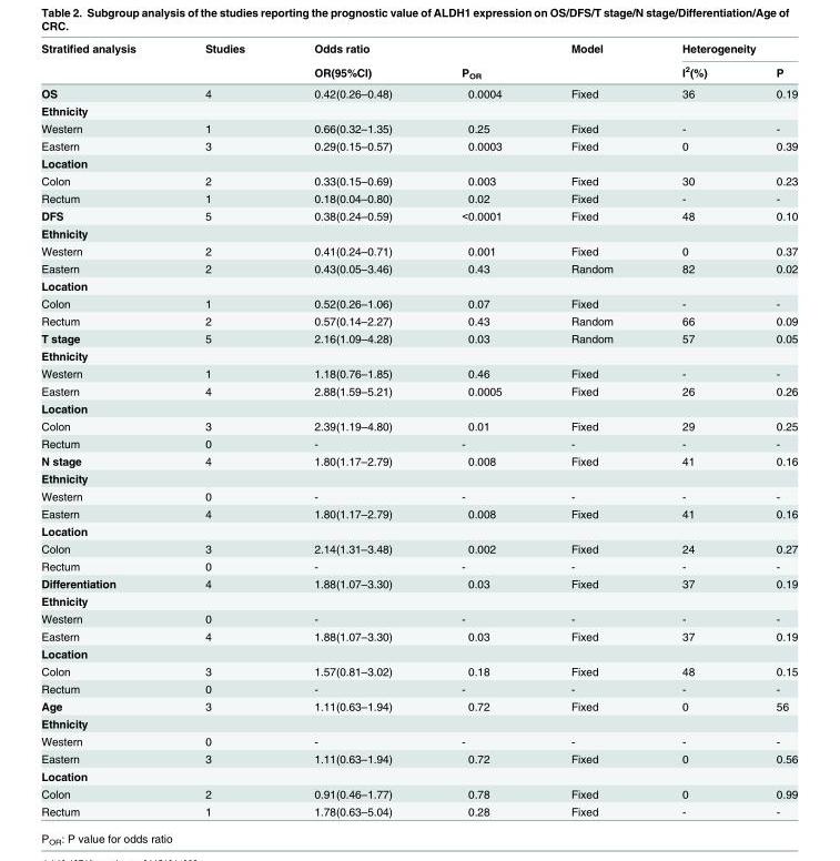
<table><thead><tr><td rowspan="2">Stratified analysis</td><td rowspan="2">Studies</td><td rowspan="2">Odds ratio OR(95%CI)</td><td rowspan="2">P<sub>OR</sub></td><td rowspan="2">Model</td><td colspan="2">Heterogeneity</td></tr><tr><td>I<sup>2</sup>(%)</td><td>P</td></tr></thead><tbody><tr><td>OS</td><td>4</td><td>0.42(0.26–0.48)</td><td>0.0004</td><td>Fixed</td><td>36</td><td>0.19</td></tr><tr><td colspan="7">Ethnicity</td></tr><tr><td>Western</td><td>1</td><td>0.66(0.32–1.35)</td><td>0.25</td><td>Fixed</td><td>-</td><td>-</td></tr><tr><td>Eastern</td><td>3</td><td>0.29(0.15–0.57)</td><td>0.0003</td><td>Fixed</td><td>0</td><td>0.39</td></tr><tr><td colspan="7">Location</td></tr><tr><td>Colon</td><td>2</td><td>0.33(0.15–0.69)</td><td>0.003</td><td>Fixed</td><td>30</td><td>0.23</td></tr><tr><td>Rectum</td><td>1</td><td>0.18(0.04–0.80)</td><td>0.02</td><td>Fixed</td><td>-</td><td>-</td></tr><tr><td>DFS</td><td>5</td><td>0.38(0.24–0.59)</td><td>&lt;0.0001</td><td>Fixed</td><td>48</td><td>0.10</td></tr><tr><td colspan="7">Ethnicity</td></tr><tr><td>Western</td><td>2</td><td>0.41(0.24–0.71)</td><td>0.001</td><td>Fixed</td><td>0</td><td>0.37</td></tr><tr><td>Eastern</td><td>2</td><td>0.43(0.05–3.46)</td><td>0.43</td><td>Random</td><td>82</td><td>0.02</td></tr><tr><td colspan="7">Location</td></tr><tr><td>Colon</td><td>1</td><td>0.52(0.26–1.06)</td><td>0.07</td><td>Fixed</td><td>-</td><td>-</td></tr><tr><td>Rectum</td><td>2</td><td>0.57(0.14–2.27)</td><td>0.43</td><td>Random</td><td>66</td><td>0.09</td></tr><tr><td>T stage</td><td>5</td><td>2.16(1.09–4.28)</td><td>0.03</td><td>Random</td><td>57</td><td>0.05</td></tr><tr><td colspan="7">Ethnicity</td></tr><tr><td>Western</td><td>1</td><td>1.18(0.76–1.85)</td><td>0.46</td><td>Fixed</td><td>-</td><td>-</td></tr><tr><td>Eastern</td><td>4</td><td>2.88(1.59–5.21)</td><td>0.0005</td><td>Fixed</td><td>26</td><td>0.26</td></tr><tr><td colspan="7">Location</td></tr><tr><td>Colon</td><td>3</td><td>2.39(1.19–4.80)</td><td>0.01</td><td>Fixed</td><td>29</td><td>0.25</td></tr><tr><td>Rectum</td><td>0</td><td>-</td><td>-</td><td>-</td><td>-</td><td>-</td></tr><tr><td>N stage</td><td>4</td><td>1.80(1.17–2.79)</td><td>0.008</td><td>Fixed</td><td>41</td><td>0.16</td></tr><tr><td colspan="7">Ethnicity</td></tr><tr><td>Western</td><td>0</td><td>-</td><td>-</td><td>-</td><td>-</td><td>-</td></tr><tr><td>Eastern</td><td>4</td><td>1.80(1.17–2.79)</td><td>0.008</td><td>Fixed</td><td>41</td><td>0.16</td></tr><tr><td colspan="7">Location</td></tr><tr><td>Colon</td><td>3</td><td>2.14(1.31–3.48)</td><td>0.002</td><td>Fixed</td><td>24</td><td>0.27</td></tr><tr><td>Rectum</td><td>0</td><td>-</td><td>-</td><td>-</td><td>-</td><td>-</td></tr><tr><td>Differentiation</td><td>4</td><td>1.88(1.07–3.30)</td><td>0.03</td><td>Fixed</td><td>37</td><td>0.19</td></tr><tr><td colspan="7">Ethnicity</td></tr><tr><td>Western</td><td>0</td><td>-</td><td>-</td><td>-</td><td>-</td><td>-</td></tr><tr><td>Eastern</td><td>4</td><td>1.88(1.07–3.30)</td><td>0.03</td><td>Fixed</td><td>37</td><td>0.19</td></tr><tr><td colspan="7">Location</td></tr><tr><td>Colon</td><td>3</td><td>1.57(0.81–3.02)</td><td>0.18</td><td>Fixed</td><td>48</td><td>0.15</td></tr><tr><td>Rectum</td><td>0</td><td>-</td><td>-</td><td>-</td><td>-</td><td>-</td></tr><tr><td>Age</td><td>3</td><td>1.11(0.63–1.94)</td><td>0.72</td><td>Fixed</td><td>0</td><td>56</td></tr><tr><td colspan="7">Ethnicity</td></tr><tr><td>Western</td><td>0</td><td>-</td><td>-</td><td>-</td><td>-</td><td>-</td></tr><tr><td>Eastern</td><td>3</td><td>1.11(0.63–1.94)</td><td>0.72</td><td>Fixed</td><td>0</td><td>0.56</td></tr><tr><td colspan="7">Location</td></tr><tr><td>Colon</td><td>2</td><td>0.91(0.46–1.77)</td><td>0.78</td><td>Fixed</td><td>0</td><td>0.99</td></tr><tr><td>Rectum</td><td>1</td><td>1.78(0.63–5.04)</td><td>0.28</td><td>Fixed</td><td>-</td><td>-</td></tr></tbody></table>